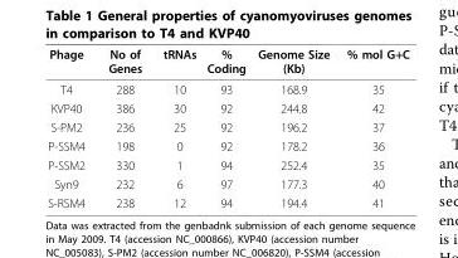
<table><thead><tr><td>Phage</td><td>No of Genes</td><td>tRNAs</td><td>% Coding</td><td>Genome Size (Kb)</td><td>% mol G+C</td></tr></thead><tbody><tr><td>T4</td><td>288</td><td>10</td><td>93</td><td>168.9</td><td>35</td></tr><tr><td>KVP40</td><td>386</td><td>30</td><td>92</td><td>244.8</td><td>42</td></tr><tr><td>S-PM2</td><td>236</td><td>25</td><td>92</td><td>196.2</td><td>37</td></tr><tr><td>P-SSM4</td><td>198</td><td>0</td><td>92</td><td>178.2</td><td>36</td></tr><tr><td>P-SSM2</td><td>330</td><td>1</td><td>94</td><td>252.4</td><td>35</td></tr><tr><td>Syn9</td><td>232</td><td>6</td><td>97</td><td>177.3</td><td>40</td></tr><tr><td>S-RSM4</td><td>238</td><td>12</td><td>94</td><td>194.4</td><td>41</td></tr></tbody></table>